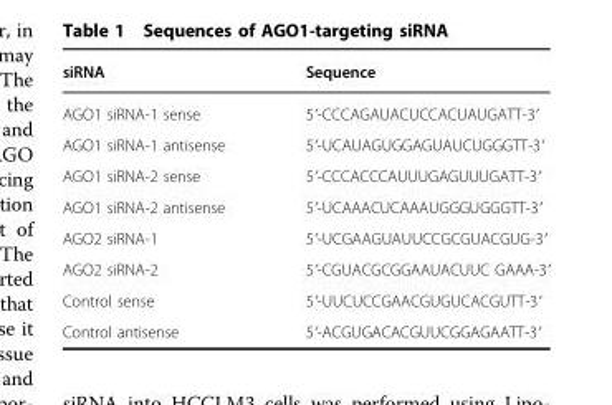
<table><thead><tr><td>siRNA</td><td>Sequence</td></tr></thead><tbody><tr><td>AGO1 siRNA-1 sense</td><td>5ʹ-CCCAGAUACUCCACUAUGATT-3ʹ</td></tr><tr><td>AGO1 siRNA-1 antisense</td><td>5ʹ-UCAUAGUGGAGUAUCUGGGTT-3ʹ</td></tr><tr><td>AGO1 siRNA-2 sense</td><td>5ʹ-CCCACCCAUUUGAGUUUGATT-3ʹ</td></tr><tr><td>AGO1 siRNA-2 antisense</td><td>5ʹ-UCAAACUCAAAUGGGUGGGTT-3ʹ</td></tr><tr><td>AGO2 siRNA-1</td><td>5ʹ-UCGAAGUAUUCCGCGUACGUG-3ʹ</td></tr><tr><td>AGO2 siRNA-2</td><td>5ʹ-CGUACGCGGAAUACUUC GAAA-3ʹ</td></tr><tr><td>Control sense</td><td>5ʹ-UUCUCCGAACGUGUCACGUTT-3ʹ</td></tr><tr><td>Control antisense</td><td>5ʹ-ACGUGACACGUUCGGAGAATT-3ʹ</td></tr></tbody></table>